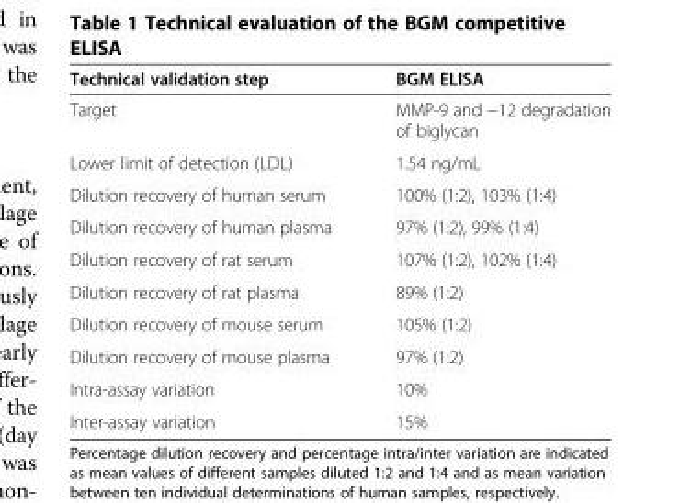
<table><thead><tr><td>Technical validation step</td><td>BGM ELISA</td></tr></thead><tbody><tr><td>Target</td><td>MMP-9 and −12 degradation of biglycan</td></tr><tr><td>Lower limit of detection (LDL)</td><td>1.54 ng/mL</td></tr><tr><td>Dilution recovery of human serum</td><td>100% (1:2), 103% (1:4)</td></tr><tr><td>Dilution recovery of human plasma</td><td>97% (1:2), 99% (1:4)</td></tr><tr><td>Dilution recovery of rat serum</td><td>107% (1:2), 102% (1:4)</td></tr><tr><td>Dilution recovery of rat plasma</td><td>89% (1:2)</td></tr><tr><td>Dilution recovery of mouse serum</td><td>105% (1:2)</td></tr><tr><td>Dilution recovery of mouse plasma</td><td>97% (1:2)</td></tr><tr><td>Intra-assay variation</td><td>10%</td></tr><tr><td>Inter-assay variation</td><td>15%</td></tr></tbody></table>